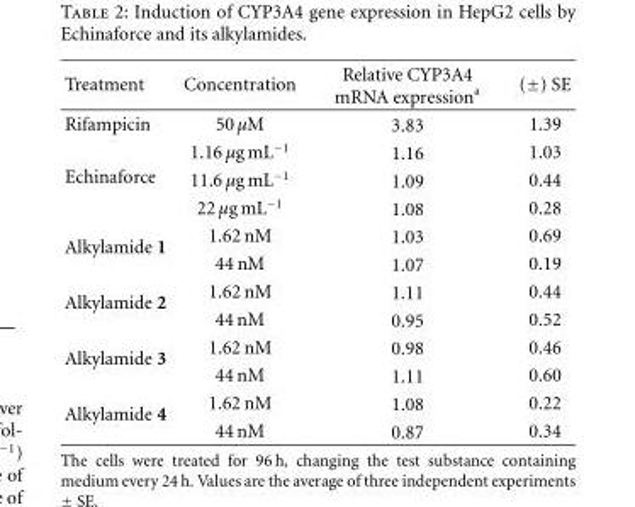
<table><thead><tr><td>Treatment</td><td>Concentration</td><td>Relative CYP3A4 mRNA expression<sup>a</sup></td><td>(±) SE</td></tr></thead><tbody><tr><td>Rifampicin</td><td>50 μM</td><td>3.83</td><td>1.39</td></tr><tr><td rowspan="3">Echinaforce</td><td>1.16 μg mL<sup>−1</sup></td><td>1.16</td><td>1.03</td></tr><tr><td>11.6 μg mL<sup>−1</sup></td><td>1.09</td><td>0.44</td></tr><tr><td>22 μg mL<sup>−1</sup></td><td>1.08</td><td>0.28</td></tr><tr><td rowspan="2">Alkylamide 1</td><td>1.62 nM</td><td>1.03</td><td>0.69</td></tr><tr><td>44 nM</td><td>1.07</td><td>0.19</td></tr><tr><td rowspan="2">Alkylamide 2</td><td>1.62 nM</td><td>1.11</td><td>0.44</td></tr><tr><td>44 nM</td><td>0.95</td><td>0.52</td></tr><tr><td rowspan="2">Alkylamide 3</td><td>1.62 nM</td><td>0.98</td><td>0.46</td></tr><tr><td>44 nM</td><td>1.11</td><td>0.60</td></tr><tr><td rowspan="2">Alkylamide 4</td><td>1.62 nM</td><td>1.08</td><td>0.22</td></tr><tr><td>44 nM</td><td>0.87</td><td>0.34</td></tr></tbody></table>